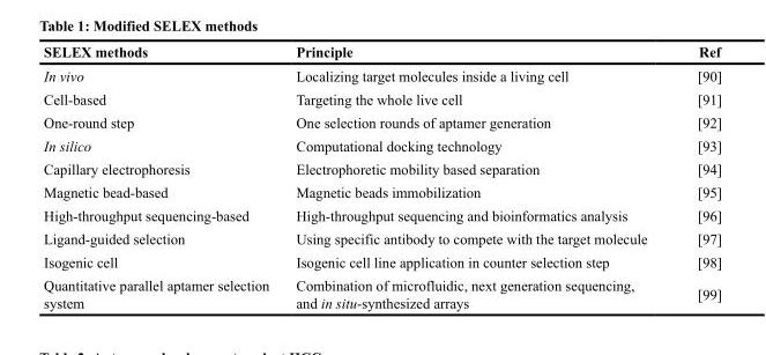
<table><thead><tr><td>SELEX methods</td><td>Principle</td><td>Ref</td></tr></thead><tbody><tr><td>In vivo</td><td>Localizing target molecules inside a living cell</td><td>[90]</td></tr><tr><td>Cell-based</td><td>Targeting the whole live cell</td><td>[91]</td></tr><tr><td>One-round step</td><td>One selection rounds of aptamer generation</td><td>[92]</td></tr><tr><td>In silico</td><td>Computational docking technology</td><td>[93]</td></tr><tr><td>Capillary electrophoresis</td><td>Electrophoretic mobility based separation</td><td>[94]</td></tr><tr><td>Magnetic bead-based</td><td>Magnetic beads immobilization</td><td>[95]</td></tr><tr><td>High-throughput sequencing-based</td><td>High-throughput sequencing and bioinformatics analysis</td><td>[96]</td></tr><tr><td>Ligand-guided selection</td><td>Using specific antibody to compete with the target molecule</td><td>[97]</td></tr><tr><td>Isogenic cell</td><td>Isogenic cell line application in counter selection step</td><td>[98]</td></tr><tr><td>Quantitative parallel aptamer selection system</td><td>Combination of microfluidic, next generation sequencing, and in situ-synthesized arrays</td><td>[99]</td></tr></tbody></table>